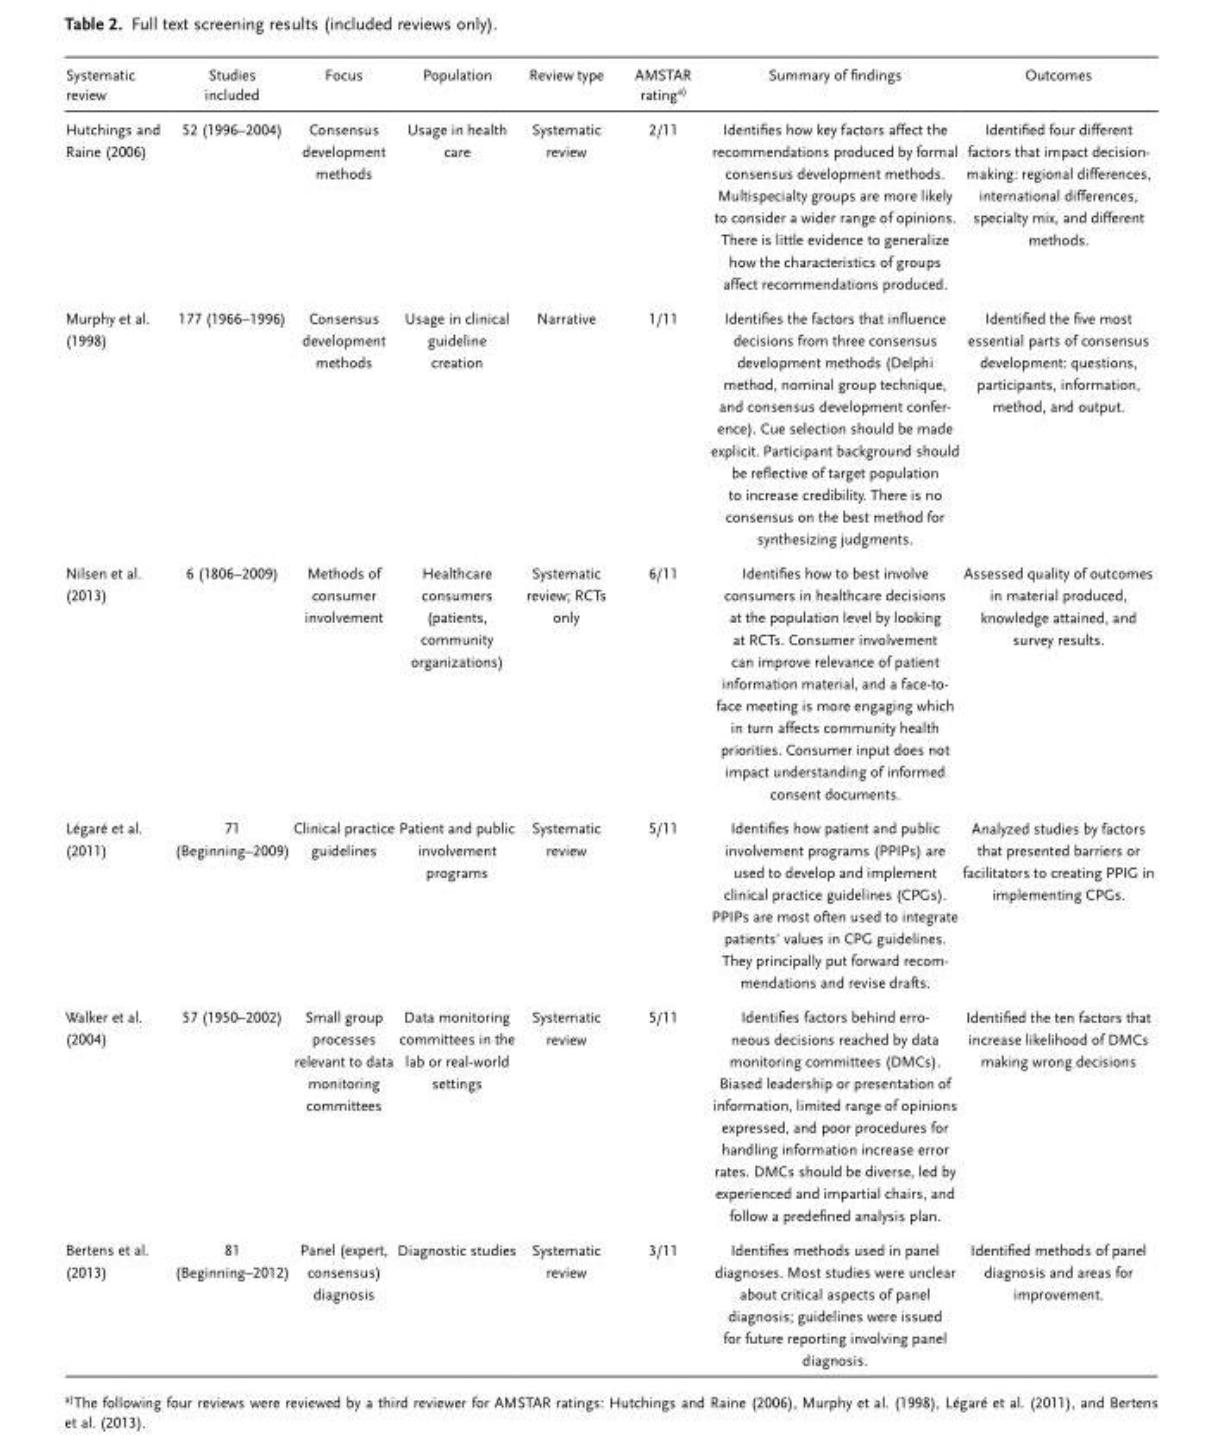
<table><thead><tr><td>Systematic review</td><td>Studies included</td><td>Focus</td><td>Population</td><td>Review type</td><td>AMSTAR ratinga)</td><td>Summary of findings</td><td>Outcomes</td></tr></thead><tbody><tr><td>Hutchings and Raine (2006)</td><td>52 (1996–2004)</td><td>Consensus development methods</td><td>Usage in health care</td><td>Systematic review</td><td>2/11</td><td>Identifies how key factors affect the recommendations produced by formal consensus development methods. Multispecialty groups are more likely to consider a wider range of opinions. There is little evidence to generalize how the characteristics of groups affect recommendations produced.</td><td>Identified four different factors that impact decision- making: regional differences, international differences, specialty mix, and different methods.</td></tr><tr><td>Murphy et al. (1998)</td><td>177 (1966–1996)</td><td>Consensus development methods</td><td>Usage in clinical guideline creation</td><td>Narrative</td><td>1/11</td><td>Identifies the factors that influence decisions from three consensus development methods (Delphi method, nominal group technique, and consensus development confer- ence). Cue selection should be made explicit. Participant background should be reflective of target population to increase credibility. There is no consensus on the best method for synthesizing judgments.</td><td>Identified the five most essential parts of consensus development: questions, participants, information, method, and output.</td></tr><tr><td>Nilsen et al. (2013)</td><td>6 (1806–2009)</td><td>Methods of consumer involvement</td><td>Healthcare consumers (patients, community organizations)</td><td>Systematic review; RCTs only</td><td>6/11</td><td>Identifies how to best involve consumers in healthcare decisions at the population level by looking at RCTs. Consumer involvement can improve relevance of patient information material, and a face-to- face meeting is more engaging which in turn affects community health priorities. Consumer input does not impact understanding of informed consent documents.</td><td>Assessed quality of outcomes in material produced, knowledge attained, and survey results.</td></tr><tr><td>Légaré et al. (2011)</td><td>71 (Beginning–2009)</td><td>Clinical practice guidelines</td><td>Patient and public involvement programs</td><td>Systematic review</td><td>5/11</td><td>Identifies how patient and public involvement programs (PPIPs) are used to develop and implement clinical practice guidelines (CPGs). PPIPs are most often used to integrate patients’ values in CPG guidelines. They principally put forward recom- mendations and revise drafts.</td><td>Analyzed studies by factors that presented barriers or facilitators to creating PPIG in implementing CPGs.</td></tr><tr><td>Walker et al. (2004)</td><td>57 (1950–2002)</td><td>Small group processes relevant to data monitoring committees</td><td>Data monitoring committees in the lab or real-world settings</td><td>Systematic review</td><td>5/11</td><td>Identifies factors behind erro- neous decisions reached by data monitoring committees (DMCs). Biased leadership or presentation of information, limited range of opinions expressed, and poor procedures for handling information increase error rates. DMCs should be diverse, led by experienced and impartial chairs, and follow a predefined analysis plan.</td><td>Identified the ten factors that increase likelihood of DMCs making wrong decisions</td></tr><tr><td>Bertens et al. (2013)</td><td>81 (Beginning–2012)</td><td>Panel (expert, consensus) diagnosis</td><td>Diagnostic studies</td><td>Systematic review</td><td>3/11</td><td>Identifies methods used in panel diagnoses. Most studies were unclear about critical aspects of panel diagnosis; guidelines were issued for future reporting involving panel diagnosis.</td><td>Identified methods of panel diagnosis and areas for improvement.</td></tr></tbody></table>